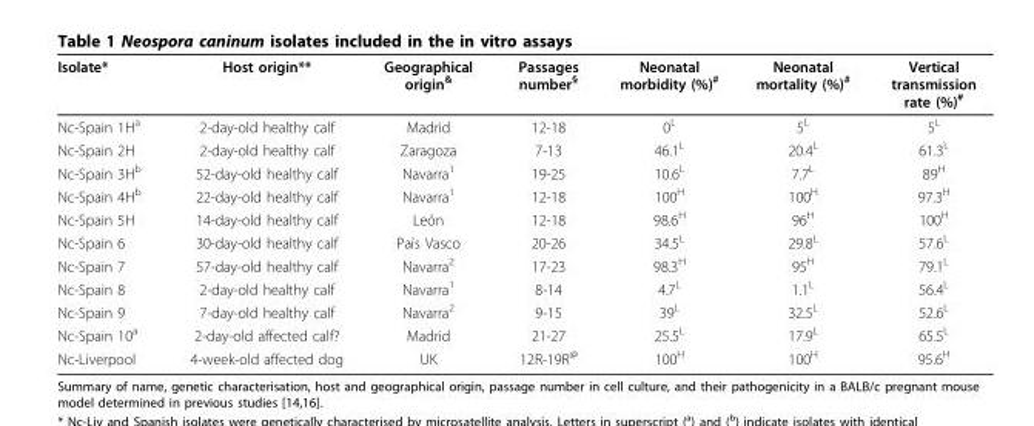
<table><thead><tr><td>Isolate*</td><td>Host origin**</td><td>Geographical origin<sup>&amp;</sup></td><td>Passages number<sup>§</sup></td><td>Neonatal morbidity (%)<sup>#</sup></td><td>Neonatal mortality (%)<sup>#</sup></td><td>Vertical transmission rate (%)<sup>#</sup></td></tr></thead><tbody><tr><td>Nc-Spain 1H<sup>a</sup></td><td>2-day-old healthy calf</td><td>Madrid</td><td>12-18</td><td>0<sup>L</sup></td><td>5<sup>L</sup></td><td>5<sup>L</sup></td></tr><tr><td>Nc-Spain 2H</td><td>2-day-old healthy calf</td><td>Zaragoza</td><td>7-13</td><td>46.1<sup>L</sup></td><td>20.4<sup>L</sup></td><td>61.3<sup>L</sup></td></tr><tr><td>Nc-Spain 3H<sup>b</sup></td><td>52-day-old healthy calf</td><td>Navarra<sup>1</sup></td><td>19-25</td><td>10.6<sup>L</sup></td><td>7.7<sup>L</sup></td><td>89<sup>H</sup></td></tr><tr><td>Nc-Spain 4H<sup>b</sup></td><td>22-day-old healthy calf</td><td>Navarra<sup>1</sup></td><td>12-18</td><td>100<sup>H</sup></td><td>100<sup>H</sup></td><td>97.3<sup>H</sup></td></tr><tr><td>Nc-Spain 5H</td><td>14-day-old healthy calf</td><td>León</td><td>12-18</td><td>98.6<sup>H</sup></td><td>96<sup>H</sup></td><td>100<sup>H</sup></td></tr><tr><td>Nc-Spain 6</td><td>30-day-old healthy calf</td><td>País Vasco</td><td>20-26</td><td>34.5<sup>L</sup></td><td>29.8<sup>L</sup></td><td>57.6<sup>L</sup></td></tr><tr><td>Nc-Spain 7</td><td>57-day-old healthy calf</td><td>Navarra<sup>2</sup></td><td>17-23</td><td>98.3<sup>H</sup></td><td>95<sup>H</sup></td><td>79.1<sup>L</sup></td></tr><tr><td>Nc-Spain 8</td><td>2-day-old healthy calf</td><td>Navarra<sup>1</sup></td><td>8-14</td><td>4.7<sup>L</sup></td><td>1.1<sup>L</sup></td><td>56.4<sup>L</sup></td></tr><tr><td>Nc-Spain 9</td><td>7-day-old healthy calf</td><td>Navarra<sup>2</sup></td><td>9-15</td><td>39<sup>L</sup></td><td>32.5<sup>L</sup></td><td>52.6<sup>L</sup></td></tr><tr><td>Nc-Spain 10<sup>a</sup></td><td>2-day-old affected calf?</td><td>Madrid</td><td>21-27</td><td>25.5<sup>L</sup></td><td>17.9<sup>L</sup></td><td>65.5<sup>L</sup></td></tr><tr><td>Nc-Liverpool</td><td>4-week-old affected dog</td><td>UK</td><td>12R-19R<sup>@</sup></td><td>100<sup>H</sup></td><td>100<sup>H</sup></td><td>95.6<sup>H</sup></td></tr></tbody></table>